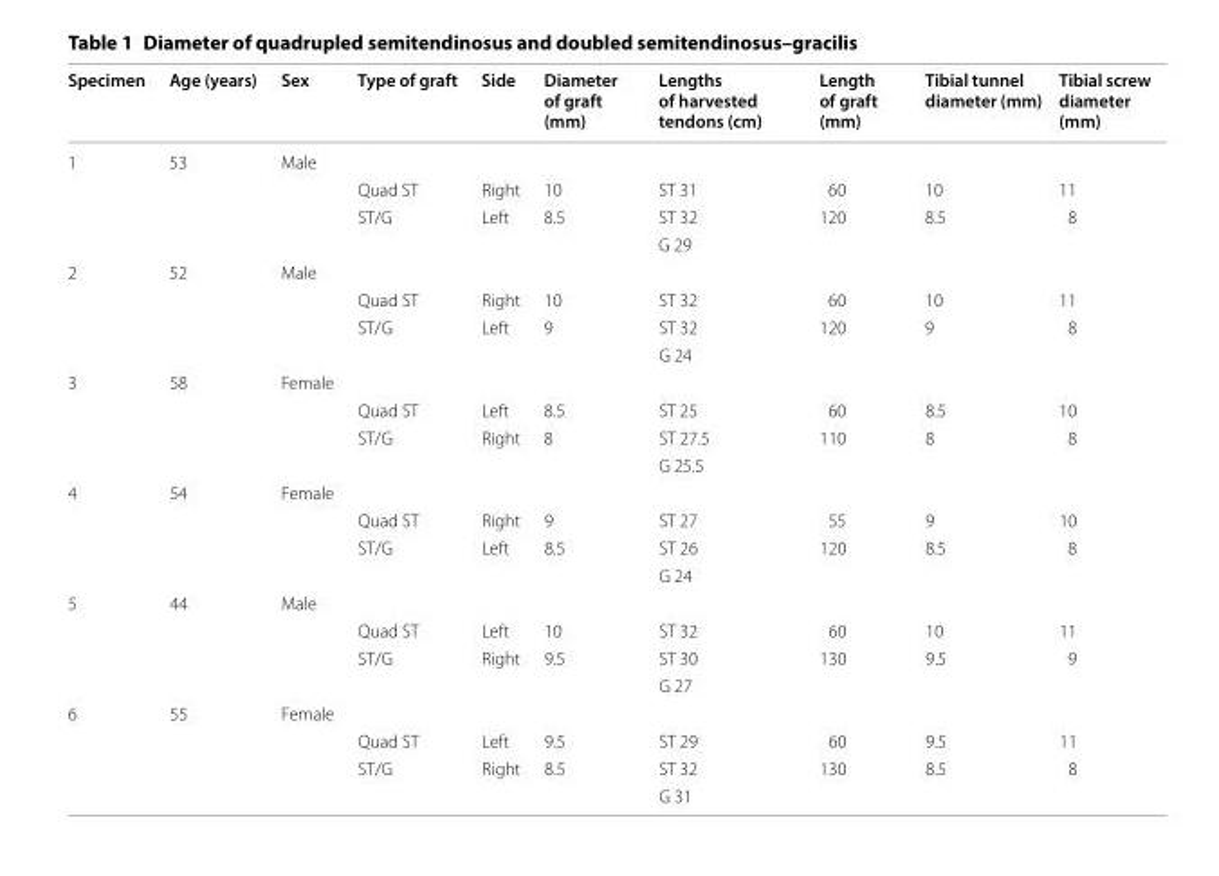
<table><thead><tr><td>Specimen</td><td>Age (years)</td><td>Sex</td><td>Type of graft</td><td>Side</td><td>Diameter of graft (mm)</td><td>Lengths of harvested tendons (cm)</td><td>Length of graft (mm)</td><td>Tibial tunnel diameter (mm)</td><td>Tibial screw diameter (mm)</td></tr></thead><tbody><tr><td rowspan="4">1</td><td>53</td><td>Male</td><td></td><td></td><td></td><td></td><td></td><td></td><td></td></tr><tr><td></td><td></td><td>Quad ST</td><td>Right</td><td>10</td><td>ST 31</td><td>60</td><td>10</td><td>11</td></tr><tr><td rowspan="2"></td><td rowspan="2"></td><td rowspan="2">ST/G</td><td rowspan="2">Left</td><td rowspan="2">8.5</td><td>ST 32</td><td rowspan="2">120</td><td rowspan="2">8.5</td><td rowspan="2">8</td></tr><tr><td>G 29</td></tr><tr><td rowspan="4">2</td><td>52</td><td>Male</td><td></td><td></td><td></td><td></td><td></td><td></td><td></td></tr><tr><td></td><td></td><td>Quad ST</td><td>Right</td><td>10</td><td>ST 32</td><td>60</td><td>10</td><td>11</td></tr><tr><td rowspan="2"></td><td rowspan="2"></td><td rowspan="2">ST/G</td><td rowspan="2">Left</td><td rowspan="2">9</td><td>ST 32</td><td rowspan="2">120</td><td rowspan="2">9</td><td rowspan="2">8</td></tr><tr><td>G 24</td></tr><tr><td rowspan="4">3</td><td>58</td><td>Female</td><td></td><td></td><td></td><td></td><td></td><td></td><td></td></tr><tr><td></td><td></td><td>Quad ST</td><td>Left</td><td>8.5</td><td>ST 25</td><td>60</td><td>8.5</td><td>10</td></tr><tr><td rowspan="2"></td><td rowspan="2"></td><td rowspan="2">ST/G</td><td rowspan="2">Right</td><td rowspan="2">8</td><td>ST 27.5</td><td rowspan="2">110</td><td rowspan="2">8</td><td rowspan="2">8</td></tr><tr><td>G 25.5</td></tr><tr><td rowspan="4">4</td><td>54</td><td>Female</td><td></td><td></td><td></td><td></td><td></td><td></td><td></td></tr><tr><td></td><td></td><td>Quad ST</td><td>Right</td><td>9</td><td>ST 27</td><td>55</td><td>9</td><td>10</td></tr><tr><td rowspan="2"></td><td rowspan="2"></td><td rowspan="2">ST/G</td><td rowspan="2">Left</td><td rowspan="2">8.5</td><td>ST 26</td><td rowspan="2">120</td><td rowspan="2">8.5</td><td rowspan="2">8</td></tr><tr><td>G 24</td></tr><tr><td rowspan="4">5</td><td>44</td><td>Male</td><td></td><td></td><td></td><td></td><td></td><td></td><td></td></tr><tr><td></td><td></td><td>Quad ST</td><td>Left</td><td>10</td><td>ST 32</td><td>60</td><td>10</td><td>11</td></tr><tr><td rowspan="2"></td><td rowspan="2"></td><td rowspan="2">ST/G</td><td rowspan="2">Right</td><td rowspan="2">9.5</td><td>ST 30</td><td rowspan="2">130</td><td rowspan="2">9.5</td><td rowspan="2">9</td></tr><tr><td>G 27</td></tr><tr><td rowspan="4">6</td><td>55</td><td>Female</td><td></td><td></td><td></td><td></td><td></td><td></td><td></td></tr><tr><td></td><td></td><td>Quad ST</td><td>Left</td><td>9.5</td><td>ST 29</td><td>60</td><td>9.5</td><td>11</td></tr><tr><td rowspan="2"></td><td rowspan="2"></td><td rowspan="2">ST/G</td><td rowspan="2">Right</td><td rowspan="2">8.5</td><td>ST 32</td><td rowspan="2">130</td><td rowspan="2">8.5</td><td rowspan="2">8</td></tr><tr><td>G 31</td></tr></tbody></table>